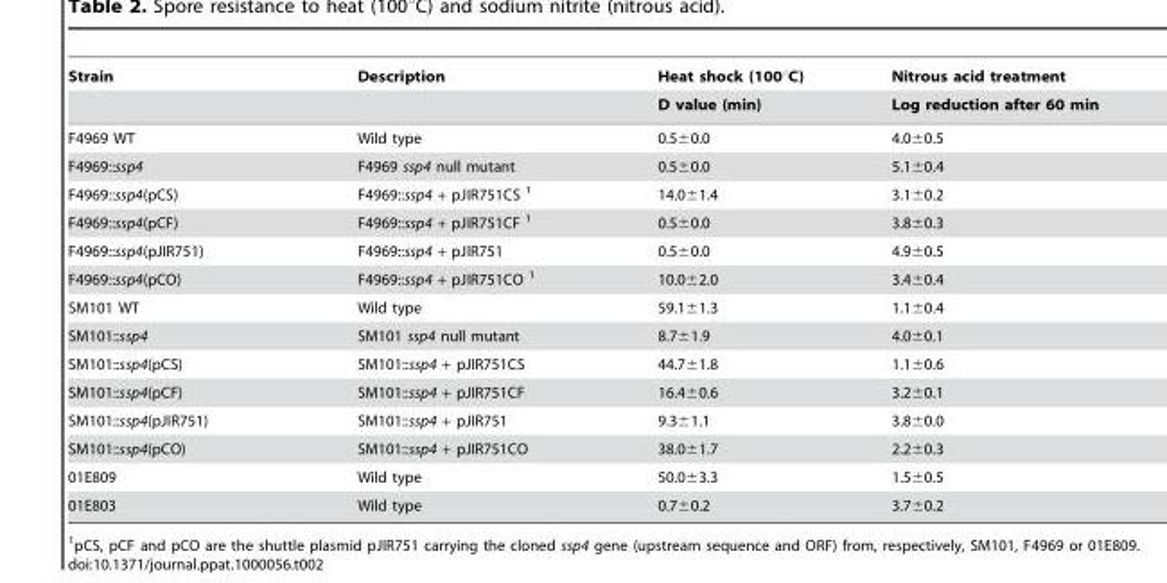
<table><thead><tr><td rowspan="2">Strain</td><td rowspan="2">Description</td><td rowspan="2">Heat shock (100°C) D value (min)</td><td rowspan="2">Nitrous acid treatment Log reduction after 60 min</td></tr><tr></tr></thead><tbody><tr><td>F4969 WT</td><td>Wild type</td><td>0.5±0.0</td><td>4.0±0.5</td></tr><tr><td>F4969::ssp4</td><td>F4969 ssp4 null mutant</td><td>0.5±0.0</td><td>5.1±0.4</td></tr><tr><td>F4969::ssp4(pCS)</td><td>F4969::ssp4 + pJIR751CS 1</td><td>14.0±1.4</td><td>3.1±0.2</td></tr><tr><td>F4969::ssp4(pCF)</td><td>F4969::ssp4 + pJIR751CF 1</td><td>0.5±0.0</td><td>3.8±0.3</td></tr><tr><td>F4969::ssp4(pJIR751)</td><td>F4969::ssp4 + pJIR751</td><td>0.5±0.0</td><td>4.9±0.5</td></tr><tr><td>F4969::ssp4(pCO)</td><td>F4969::ssp4 + pJIR751CO 1</td><td>10.0±2.0</td><td>3.4±0.4</td></tr><tr><td>SM101 WT</td><td>Wild type</td><td>59.1±1.3</td><td>1.1±0.4</td></tr><tr><td>SM101::ssp4</td><td>SM101 ssp4 null mutant</td><td>8.7±1.9</td><td>4.0±0.1</td></tr><tr><td>SM101::ssp4(pCS)</td><td>SM101::ssp4 + pJIR751CS</td><td>44.7±1.8</td><td>1.1±0.6</td></tr><tr><td>SM101::ssp4(pCF)</td><td>SM101::ssp4 + pJIR751CF</td><td>16.4±0.6</td><td>3.2±0.1</td></tr><tr><td>SM101::ssp4(pJIR751)</td><td>SM101::ssp4 + pJIR751</td><td>9.3±1.1</td><td>3.8±0.0</td></tr><tr><td>SM101::ssp4(pCO)</td><td>SM101::ssp4 + pJIR751CO</td><td>38.0±1.7</td><td>2.2±0.3</td></tr><tr><td>01E809</td><td>Wild type</td><td>50.0±3.3</td><td>1.5±0.5</td></tr><tr><td>01E803</td><td>Wild type</td><td>0.7±0.2</td><td>3.7±0.2</td></tr></tbody></table>